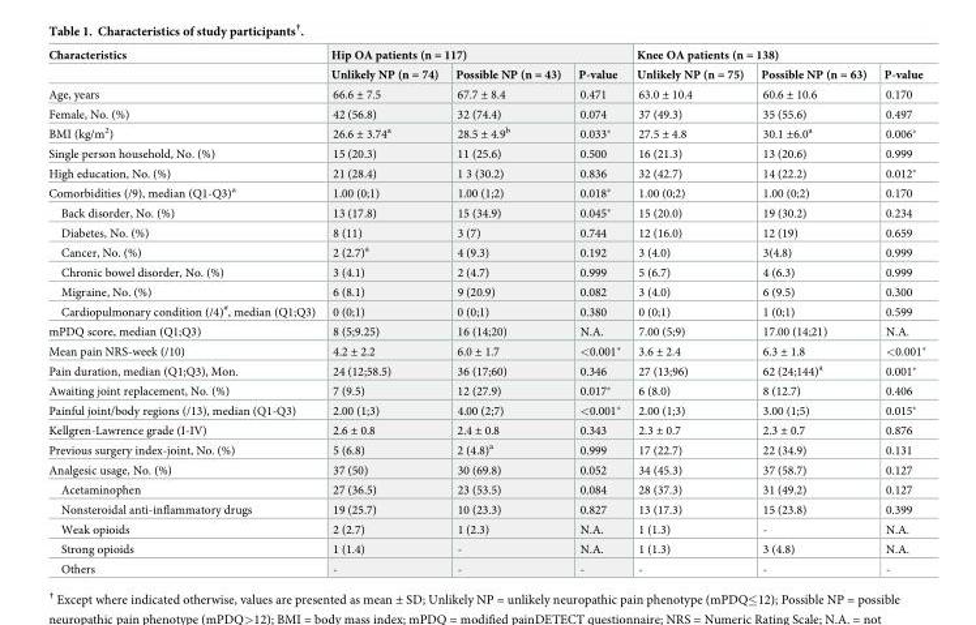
<table><thead><tr><td rowspan="2">Characteristics</td><td colspan="3">Hip OA patients (n = 117)</td><td colspan="3">Knee OA patients (n = 138)</td></tr><tr><td>Unlikely NP (n = 74)</td><td>Possible NP (n = 43)</td><td>P-value</td><td>Unlikely NP (n = 75)</td><td>Possible NP (n = 63)</td><td>P-value</td></tr></thead><tbody><tr><td>Age, years</td><td>66.6 ± 7.5</td><td>67.7 ± 8.4</td><td>0.471</td><td>63.0 ± 10.4</td><td>60.6 ± 10.6</td><td>0.170</td></tr><tr><td>Female, No. (%)</td><td>42 (56.8)</td><td>32 (74.4)</td><td>0.074</td><td>37 (49.3)</td><td>35 (55.6)</td><td>0.497</td></tr><tr><td>BMI (kg/m<sup>2</sup>)</td><td>26.6 ± 3.74<sup>a</sup></td><td>28.5 ± 4.9<sup>b</sup></td><td>0.033*</td><td>27.5 ± 4.8</td><td>30.1 ±6.0<sup>a</sup></td><td>0.006*</td></tr><tr><td>Single person household, No. (%)</td><td>15 (20.3)</td><td>11 (25.6)</td><td>0.500</td><td>16 (21.3)</td><td>13 (20.6)</td><td>0.999</td></tr><tr><td>High education, No. (%)</td><td>21 (28.4)</td><td>1 3 (30.2)</td><td>0.836</td><td>32 (42.7)</td><td>14 (22.2)</td><td>0.012*</td></tr><tr><td>Comorbidities (/9), median (Q1-Q3)<sup>a</sup></td><td>1.00 (0;1)</td><td>1.00 (1;2)</td><td>0.018*</td><td>1.00 (0;2)</td><td>1.00 (0;2)</td><td>0.170</td></tr><tr><td>Back disorder, No. (%)</td><td>13 (17.8)</td><td>15 (34.9)</td><td>0.045*</td><td>15 (20.0)</td><td>19 (30.2)</td><td>0.234</td></tr><tr><td>Diabetes, No. (%)</td><td>8 (11)</td><td>3 (7)</td><td>0.744</td><td>12 (16.0)</td><td>12 (19)</td><td>0.659</td></tr><tr><td>Cancer, No. (%)</td><td>2 (2.7)<sup>a</sup></td><td>4 (9.3)</td><td>0.192</td><td>3 (4.0)</td><td>3(4.8)</td><td>0.999</td></tr><tr><td>Chronic bowel disorder, No. (%)</td><td>3 (4.1)</td><td>2 (4.7)</td><td>0.999</td><td>5 (6.7)</td><td>4 (6.3)</td><td>0.999</td></tr><tr><td>Migraine, No. (%)</td><td>6 (8.1)</td><td>9 (20.9)</td><td>0.082</td><td>3 (4.0)</td><td>6 (9.5)</td><td>0.300</td></tr><tr><td>Cardiopulmonary condition (/4)<sup>#</sup>, median (Q1;Q3)</td><td>0 (0;1)</td><td>0 (0;1)</td><td>0.380</td><td>0 (0;1)</td><td>1 (0;1)</td><td>0.599</td></tr><tr><td>mPDQ score, median (Q1;Q3)</td><td>8 (5;9.25)</td><td>16 (14;20)</td><td>N.A.</td><td>7.00 (5;9)</td><td>17.00 (14;21)</td><td>N.A.</td></tr><tr><td>Mean pain NRS-week (/10)</td><td>4.2 ± 2.2</td><td>6.0 ± 1.7</td><td>&lt;0.001*</td><td>3.6 ± 2.4</td><td>6.3 ± 1.8</td><td>&lt;0.001*</td></tr><tr><td>Pain duration, median (Q1;Q3), Mon.</td><td>24 (12;58.5)</td><td>36 (17;60)</td><td>0.346</td><td>27 (13;96)</td><td>62 (24;144)<sup>a</sup></td><td>0.001*</td></tr><tr><td>Awaiting joint replacement, No. (%)</td><td>7 (9.5)</td><td>12 (27.9)</td><td>0.017*</td><td>6 (8.0)</td><td>8 (12.7)</td><td>0.406</td></tr><tr><td>Painful joint/body regions (/13), median (Q1-Q3)</td><td>2.00 (1;3)</td><td>4.00 (2;7)</td><td>&lt;0.001*</td><td>2.00 (1;3)</td><td>3.00 (1;5)</td><td>0.015*</td></tr><tr><td>Kellgren-Lawrence grade (I-IV)</td><td>2.6 ± 0.8</td><td>2.4 ± 0.8</td><td>0.343</td><td>2.3 ± 0.7</td><td>2.3 ± 0.7</td><td>0.876</td></tr><tr><td>Previous surgery index-joint, No. (%)</td><td>5 (6.8)</td><td>2 (4.8)<sup>a</sup></td><td>0.999</td><td>17 (22.7)</td><td>22 (34.9)</td><td>0.131</td></tr><tr><td>Analgesic usage, No. (%)</td><td>37 (50)</td><td>30 (69.8)</td><td>0.052</td><td>34 (45.3)</td><td>37 (58.7)</td><td>0.127</td></tr><tr><td>Acetaminophen</td><td>27 (36.5)</td><td>23 (53.5)</td><td>0.084</td><td>28 (37.3)</td><td>31 (49.2)</td><td>0.127</td></tr><tr><td>Nonsteroidal anti-inflammatory drugs</td><td>19 (25.7)</td><td>10 (23.3)</td><td>0.827</td><td>13 (17.3)</td><td>15 (23.8)</td><td>0.399</td></tr><tr><td>Weak opioids</td><td>2 (2.7)</td><td>1 (2.3)</td><td>N.A.</td><td>1 (1.3)</td><td>-</td><td>N.A.</td></tr><tr><td>Strong opioids</td><td>1 (1.4)</td><td>-</td><td>N.A.</td><td>1 (1.3)</td><td>3 (4.8)</td><td>N.A.</td></tr><tr><td>Others</td><td>-</td><td>-</td><td>-</td><td>-</td><td>-</td><td>-</td></tr></tbody></table>